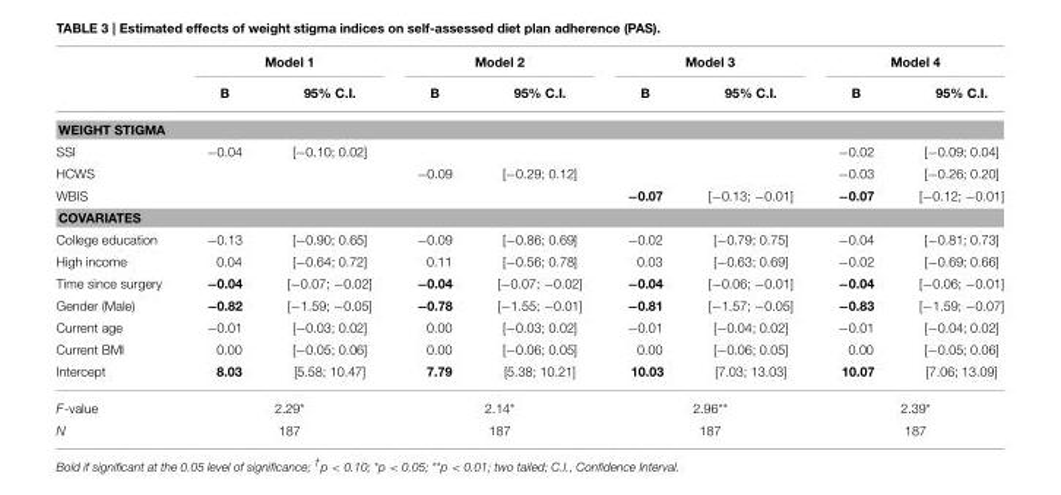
<table><thead><tr><td rowspan="2"></td><td colspan="2">Model 1</td><td colspan="2">Model 2</td><td colspan="2">Model 3</td><td colspan="2">Model 4</td></tr><tr><td>B</td><td>95% C.I.</td><td>B</td><td>95% C.I.</td><td>B</td><td>95% C.I.</td><td>B</td><td>95% C.I.</td></tr></thead><tbody><tr><td colspan="9">WEIGHT STIGMA</td></tr><tr><td>SSI</td><td>−0.04</td><td>[−0.10; 0.02]</td><td></td><td></td><td></td><td></td><td>−0.02</td><td>[−0.09; 0.04]</td></tr><tr><td>HCWS</td><td></td><td></td><td>−0.09</td><td>[−0.29; 0.12]</td><td></td><td></td><td>−0.03</td><td>[−0.26; 0.20]</td></tr><tr><td>WBIS</td><td></td><td></td><td></td><td></td><td>−0.07</td><td>[−0.13; −0.01]</td><td>−0.07</td><td>[−0.12; −0.01]</td></tr><tr><td colspan="9">COVARIATES</td></tr><tr><td>College education</td><td>−0.13</td><td>[−0.90; 0.65]</td><td>−0.09</td><td>[−0.86; 0.69]</td><td>−0.02</td><td>[−0.79; 0.75]</td><td>−0.04</td><td>[−0.81; 0.73]</td></tr><tr><td>High income</td><td>0.04</td><td>[−0.64; 0.72]</td><td>0.11</td><td>[−0.56; 0.78]</td><td>0.03</td><td>[−0.63; 0.69]</td><td>−0.02</td><td>[−0.69; 0.66]</td></tr><tr><td>Time since surgery</td><td>−0.04</td><td>[−0.07; −0.02]</td><td>−0.04</td><td>[−0.07; −0.02]</td><td>−0.04</td><td>[−0.06; −0.01]</td><td>−0.04</td><td>[−0.06; −0.01]</td></tr><tr><td>Gender (Male)</td><td>−0.82</td><td>[−1.59; −0.05]</td><td>−0.78</td><td>[−1.55; −0.01]</td><td>−0.81</td><td>[−1.57; −0.05]</td><td>−0.83</td><td>[−1.59; −0.07]</td></tr><tr><td>Current age</td><td>−0.01</td><td>[−0.03; 0.02]</td><td>0.00</td><td>[−0.03; 0.02]</td><td>−0.01</td><td>[−0.04; 0.02]</td><td>−0.01</td><td>[−0.04; 0.02]</td></tr><tr><td>Current BMI</td><td>0.00</td><td>[−0.05; 0.06]</td><td>0.00</td><td>[−0.06; 0.05]</td><td>0.00</td><td>[−0.06; 0.05]</td><td>0.00</td><td>[−0.05; 0.06]</td></tr><tr><td>Intercept</td><td>8.03</td><td>[5.58; 10.47]</td><td>7.79</td><td>[5.38; 10.21]</td><td>10.03</td><td>[7.03; 13.03]</td><td>10.07</td><td>[7.06; 13.09]</td></tr><tr><td>F-value</td><td colspan="2">2.29*</td><td colspan="2">2.14*</td><td colspan="2">2.96**</td><td colspan="2">2.39*</td></tr><tr><td>N</td><td colspan="2">187</td><td colspan="2">187</td><td colspan="2">187</td><td colspan="2">187</td></tr></tbody></table>